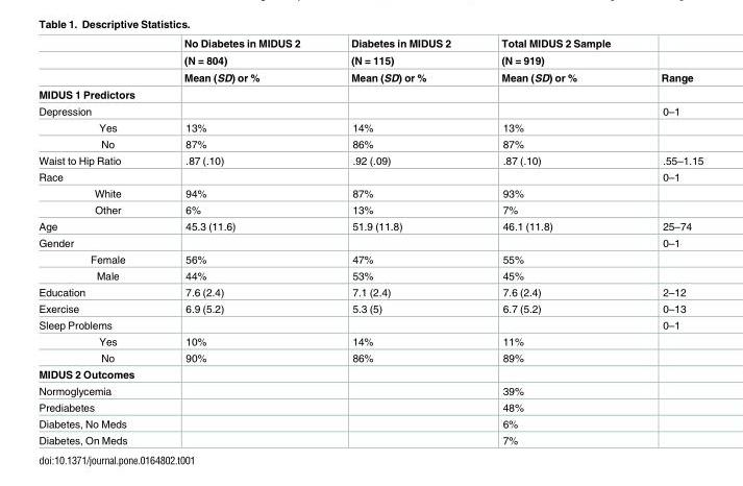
<table><thead><tr><td rowspan="3"></td><td rowspan="3">No Diabetes in MIDUS 2 (N = 804) Mean (SD) or %</td><td rowspan="3">Diabetes in MIDUS 2 (N = 115) Mean (SD) or %</td><td rowspan="3">Total MIDUS 2 Sample (N = 919) Mean (SD) or %</td><td rowspan="3">Range</td></tr><tr></tr><tr></tr></thead><tbody><tr><td colspan="5">MIDUS 1 Predictors</td></tr><tr><td>Depression</td><td></td><td></td><td></td><td>0–1</td></tr><tr><td>Yes</td><td>13%</td><td>14%</td><td>13%</td><td></td></tr><tr><td>No</td><td>87%</td><td>86%</td><td>87%</td><td></td></tr><tr><td>Waist to Hip Ratio</td><td>.87 (.10)</td><td>.92 (.09)</td><td>.87 (.10)</td><td>.55–1.15</td></tr><tr><td>Race</td><td></td><td></td><td></td><td>0–1</td></tr><tr><td>White</td><td>94%</td><td>87%</td><td>93%</td><td></td></tr><tr><td>Other</td><td>6%</td><td>13%</td><td>7%</td><td></td></tr><tr><td>Age</td><td>45.3 (11.6)</td><td>51.9 (11.8)</td><td>46.1 (11.8)</td><td>25–74</td></tr><tr><td>Gender</td><td></td><td></td><td></td><td>0–1</td></tr><tr><td>Female</td><td>56%</td><td>47%</td><td>55%</td><td></td></tr><tr><td>Male</td><td>44%</td><td>53%</td><td>45%</td><td></td></tr><tr><td>Education</td><td>7.6 (2.4)</td><td>7.1 (2.4)</td><td>7.6 (2.4)</td><td>2–12</td></tr><tr><td>Exercise</td><td>6.9 (5.2)</td><td>5.3 (5)</td><td>6.7 (5.2)</td><td>0–13</td></tr><tr><td>Sleep Problems</td><td></td><td></td><td></td><td>0–1</td></tr><tr><td>Yes</td><td>10%</td><td>14%</td><td>11%</td><td></td></tr><tr><td>No</td><td>90%</td><td>86%</td><td>89%</td><td></td></tr><tr><td colspan="5">MIDUS 2 Outcomes</td></tr><tr><td>Normoglycemia</td><td></td><td></td><td>39%</td><td></td></tr><tr><td>Prediabetes</td><td></td><td></td><td>48%</td><td></td></tr><tr><td>Diabetes, No Meds</td><td></td><td></td><td>6%</td><td></td></tr><tr><td>Diabetes, On Meds</td><td></td><td></td><td>7%</td><td></td></tr></tbody></table>